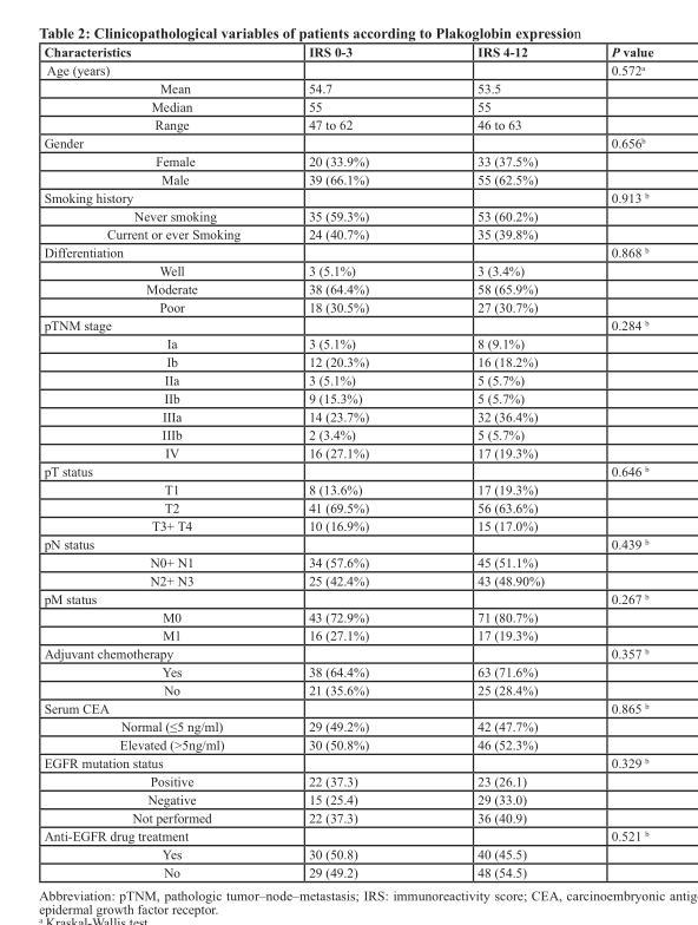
<table><thead><tr><td>Characteristics</td><td>IRS 0-3</td><td>IRS 4-12</td><td>P value</td></tr></thead><tbody><tr><td>Age (years)</td><td></td><td></td><td>0.572<sup>a</sup></td></tr><tr><td>Mean</td><td>54.7</td><td>53.5</td><td></td></tr><tr><td>Median</td><td>55</td><td>55</td><td></td></tr><tr><td>Range</td><td>47 to 62</td><td>46 to 63</td><td></td></tr><tr><td>Gender</td><td></td><td></td><td>0.656<sup>b</sup></td></tr><tr><td>Female</td><td>20 (33.9%)</td><td>33 (37.5%)</td><td></td></tr><tr><td>Male</td><td>39 (66.1%)</td><td>55 (62.5%)</td><td></td></tr><tr><td>Smoking history</td><td></td><td></td><td>0.913 <sup>b</sup></td></tr><tr><td>Never smoking</td><td>35 (59.3%)</td><td>53 (60.2%)</td><td></td></tr><tr><td>Current or ever Smoking</td><td>24 (40.7%)</td><td>35 (39.8%)</td><td></td></tr><tr><td>Differentiation</td><td></td><td></td><td>0.868 <sup>b</sup></td></tr><tr><td>Well</td><td>3 (5.1%)</td><td>3 (3.4%)</td><td></td></tr><tr><td>Moderate</td><td>38 (64.4%)</td><td>58 (65.9%)</td><td></td></tr><tr><td>Poor</td><td>18 (30.5%)</td><td>27 (30.7%)</td><td></td></tr><tr><td>pTNM stage</td><td></td><td></td><td>0.284 <sup>b</sup></td></tr><tr><td>Ia</td><td>3 (5.1%)</td><td>8 (9.1%)</td><td></td></tr><tr><td>Ib</td><td>12 (20.3%)</td><td>16 (18.2%)</td><td></td></tr><tr><td>IIa</td><td>3 (5.1%)</td><td>5 (5.7%)</td><td></td></tr><tr><td>IIb</td><td>9 (15.3%)</td><td>5 (5.7%)</td><td></td></tr><tr><td>IIIa</td><td>14 (23.7%)</td><td>32 (36.4%)</td><td></td></tr><tr><td>IIIb</td><td>2 (3.4%)</td><td>5 (5.7%)</td><td></td></tr><tr><td>IV</td><td>16 (27.1%)</td><td>17 (19.3%)</td><td></td></tr><tr><td>pT status</td><td></td><td></td><td>0.646 <sup>b</sup></td></tr><tr><td>T1</td><td>8 (13.6%)</td><td>17 (19.3%)</td><td></td></tr><tr><td>T2</td><td>41 (69.5%)</td><td>56 (63.6%)</td><td></td></tr><tr><td>T3+ T4</td><td>10 (16.9%)</td><td>15 (17.0%)</td><td></td></tr><tr><td>pN status</td><td></td><td></td><td>0.439 <sup>b</sup></td></tr><tr><td>N0+ N1</td><td>34 (57.6%)</td><td>45 (51.1%)</td><td></td></tr><tr><td>N2+ N3</td><td>25 (42.4%)</td><td>43 (48.90%)</td><td></td></tr><tr><td>pM status</td><td></td><td></td><td>0.267 <sup>b</sup></td></tr><tr><td>M0</td><td>43 (72.9%)</td><td>71 (80.7%)</td><td></td></tr><tr><td>M1</td><td>16 (27.1%)</td><td>17 (19.3%)</td><td></td></tr><tr><td>Adjuvant chemotherapy</td><td></td><td></td><td>0.357 <sup>b</sup></td></tr><tr><td>Yes</td><td>38 (64.4%)</td><td>63 (71.6%)</td><td></td></tr><tr><td>No</td><td>21 (35.6%)</td><td>25 (28.4%)</td><td></td></tr><tr><td>Serum CEA</td><td></td><td></td><td>0.865 <sup>b</sup></td></tr><tr><td>Normal (≤5 ng/ml)</td><td>29 (49.2%)</td><td>42 (47.7%)</td><td></td></tr><tr><td>Elevated (&gt;5ng/ml)</td><td>30 (50.8%)</td><td>46 (52.3%)</td><td></td></tr><tr><td>EGFR mutation status</td><td></td><td></td><td>0.329 <sup>b</sup></td></tr><tr><td>Positive</td><td>22 (37.3)</td><td>23 (26.1)</td><td></td></tr><tr><td>Negative</td><td>15 (25.4)</td><td>29 (33.0)</td><td></td></tr><tr><td>Not performed</td><td>22 (37.3)</td><td>36 (40.9)</td><td></td></tr><tr><td>Anti-EGFR drug treatment</td><td></td><td></td><td>0.521 <sup>b</sup></td></tr><tr><td>Yes</td><td>30 (50.8)</td><td>40 (45.5)</td><td></td></tr><tr><td>No</td><td>29 (49.2)</td><td>48 (54.5)</td><td></td></tr></tbody></table>